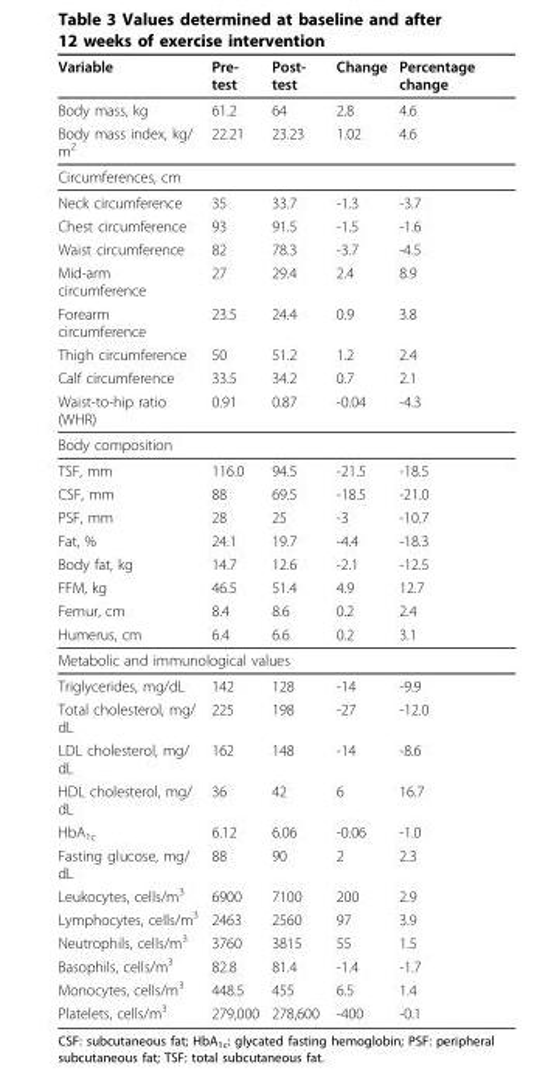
<table><thead><tr><td>Variable</td><td>Pre- test</td><td>Post- test</td><td>Change</td><td>Percentage change</td></tr></thead><tbody><tr><td>Body mass, kg</td><td>61.2</td><td>64</td><td>2.8</td><td>4.6</td></tr><tr><td>Body mass index, kg/ m<sup>2</sup></td><td>22.21</td><td>23.23</td><td>1.02</td><td>4.6</td></tr><tr><td colspan="5">Circumferences, cm</td></tr><tr><td>Neck circumference</td><td>35</td><td>33.7</td><td>-1.3</td><td>-3.7</td></tr><tr><td>Chest circumference</td><td>93</td><td>91.5</td><td>-1.5</td><td>-1.6</td></tr><tr><td>Waist circumference</td><td>82</td><td>78.3</td><td>-3.7</td><td>-4.5</td></tr><tr><td>Mid-arm circumference</td><td>27</td><td>29.4</td><td>2.4</td><td>8.9</td></tr><tr><td>Forearm circumference</td><td>23.5</td><td>24.4</td><td>0.9</td><td>3.8</td></tr><tr><td>Thigh circumference</td><td>50</td><td>51.2</td><td>1.2</td><td>2.4</td></tr><tr><td>Calf circumference</td><td>33.5</td><td>34.2</td><td>0.7</td><td>2.1</td></tr><tr><td>Waist-to-hip ratio (WHR)</td><td>0.91</td><td>0.87</td><td>-0.04</td><td>-4.3</td></tr><tr><td colspan="5">Body composition</td></tr><tr><td>TSF, mm</td><td>116.0</td><td>94.5</td><td>-21.5</td><td>-18.5</td></tr><tr><td>CSF, mm</td><td>88</td><td>69.5</td><td>-18.5</td><td>-21.0</td></tr><tr><td>PSF, mm</td><td>28</td><td>25</td><td>-3</td><td>-10.7</td></tr><tr><td>Fat, %</td><td>24.1</td><td>19.7</td><td>-4.4</td><td>-18.3</td></tr><tr><td>Body fat, kg</td><td>14.7</td><td>12.6</td><td>-2.1</td><td>-12.5</td></tr><tr><td>FFM, kg</td><td>46.5</td><td>51.4</td><td>4.9</td><td>12.7</td></tr><tr><td>Femur, cm</td><td>8.4</td><td>8.6</td><td>0.2</td><td>2.4</td></tr><tr><td>Humerus, cm</td><td>6.4</td><td>6.6</td><td>0.2</td><td>3.1</td></tr><tr><td colspan="5">Metabolic and immunological values</td></tr><tr><td>Triglycerides, mg/dL</td><td>142</td><td>128</td><td>-14</td><td>-9.9</td></tr><tr><td>Total cholesterol, mg/ dL</td><td>225</td><td>198</td><td>-27</td><td>-12.0</td></tr><tr><td>LDL cholesterol, mg/ dL</td><td>162</td><td>148</td><td>-14</td><td>-8.6</td></tr><tr><td>HDL cholesterol, mg/ dL</td><td>36</td><td>42</td><td>6</td><td>16.7</td></tr><tr><td>HbA<sub>1c</sub></td><td>6.12</td><td>6.06</td><td>-0.06</td><td>-1.0</td></tr><tr><td>Fasting glucose, mg/ dL</td><td>88</td><td>90</td><td>2</td><td>2.3</td></tr><tr><td>Leukocytes, cells/m<sup>3</sup></td><td>6900</td><td>7100</td><td>200</td><td>2.9</td></tr><tr><td>Lymphocytes, cells/m<sup>3</sup></td><td>2463</td><td>2560</td><td>97</td><td>3.9</td></tr><tr><td>Neutrophils, cells/m<sup>3</sup></td><td>3760</td><td>3815</td><td>55</td><td>1.5</td></tr><tr><td>Basophils, cells/m<sup>3</sup></td><td>82.8</td><td>81.4</td><td>-1.4</td><td>-1.7</td></tr><tr><td>Monocytes, cells/m<sup>3</sup></td><td>448.5</td><td>455</td><td>6.5</td><td>1.4</td></tr><tr><td>Platelets, cells/m<sup>3</sup></td><td>279,000</td><td>278,600</td><td>-400</td><td>-0.1</td></tr></tbody></table>